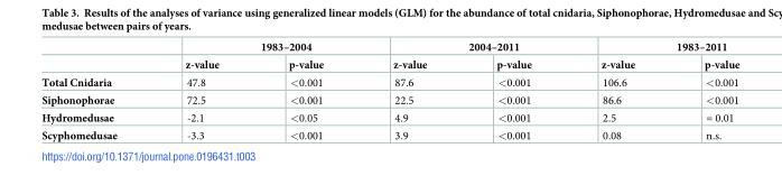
<table><thead><tr><td rowspan="2"></td><td colspan="2">1983–2004</td><td colspan="2">2004–2011</td><td colspan="2">1983–2011</td></tr><tr><td>z-value</td><td>p-value</td><td>z-value</td><td>p-value</td><td>z-value</td><td>p-value</td></tr></thead><tbody><tr><td>Total Cnidaria</td><td>47.8</td><td>&lt;0.001</td><td>87.6</td><td>&lt;0.001</td><td>106.6</td><td>&lt;0.001</td></tr><tr><td>Siphonophorae</td><td>72.5</td><td>&lt;0.001</td><td>22.5</td><td>&lt;0.001</td><td>86.6</td><td>&lt;0.001</td></tr><tr><td>Hydromedusae</td><td>-2.1</td><td>&lt;0.05</td><td>4.9</td><td>&lt;0.001</td><td>2.5</td><td>= 0.01</td></tr><tr><td>Scyphomedusae</td><td>-3.3</td><td>&lt;0.001</td><td>3.9</td><td>&lt;0.001</td><td>0.08</td><td>n.s.</td></tr></tbody></table>